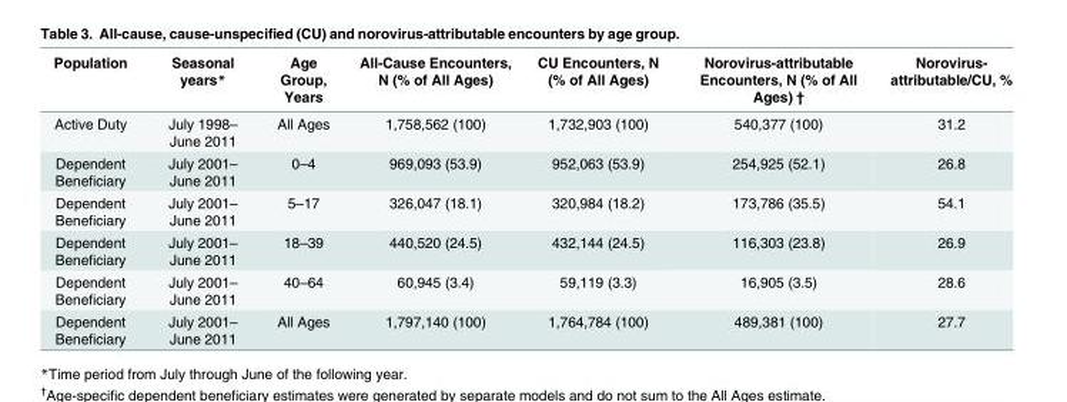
<table><thead><tr><td>Population</td><td>Seasonal years*</td><td>Age Group, Years</td><td>All-Cause Encounters, N (% of All Ages)</td><td>CU Encounters, N (% of All Ages)</td><td>Norovirus-attributable Encounters, N (% of All Ages) †</td><td>Norovirus- attributable/CU, %</td></tr></thead><tbody><tr><td>Active Duty</td><td>July 1998– June 2011</td><td>All Ages</td><td>1,758,562 (100)</td><td>1,732,903 (100)</td><td>540,377 (100)</td><td>31.2</td></tr><tr><td>Dependent Beneficiary</td><td>July 2001– June 2011</td><td>0–4</td><td>969,093 (53.9)</td><td>952,063 (53.9)</td><td>254,925 (52.1)</td><td>26.8</td></tr><tr><td>Dependent Beneficiary</td><td>July 2001– June 2011</td><td>5–17</td><td>326,047 (18.1)</td><td>320,984 (18.2)</td><td>173,786 (35.5)</td><td>54.1</td></tr><tr><td>Dependent Beneficiary</td><td>July 2001– June 2011</td><td>18–39</td><td>440,520 (24.5)</td><td>432,144 (24.5)</td><td>116,303 (23.8)</td><td>26.9</td></tr><tr><td>Dependent Beneficiary</td><td>July 2001– June 2011</td><td>40–64</td><td>60,945 (3.4)</td><td>59,119 (3.3)</td><td>16,905 (3.5)</td><td>28.6</td></tr><tr><td>Dependent Beneficiary</td><td>July 2001– June 2011</td><td>All Ages</td><td>1,797,140 (100)</td><td>1,764,784 (100)</td><td>489,381 (100)</td><td>27.7</td></tr></tbody></table>